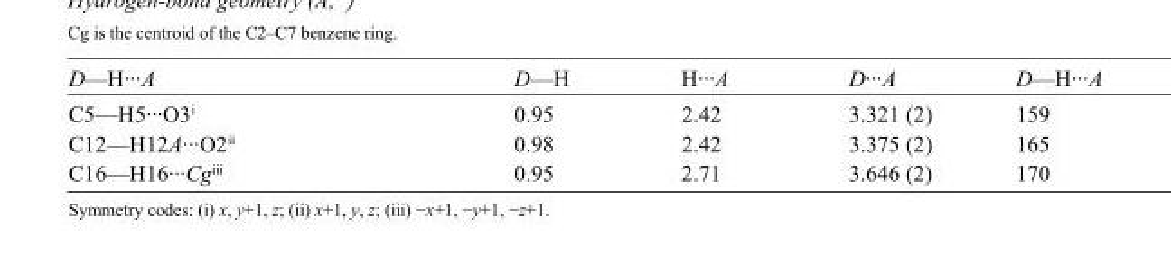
<table><tbody><tr><td>D—H···A</td><td>D—H</td><td>H···A</td><td>D···A</td><td>D—H···A</td></tr><tr><td>C5—H5···O3<sup>i</sup></td><td>0.95</td><td>2.42</td><td>3.321 (2)</td><td>159</td></tr><tr><td>C12—H12A···O2<sup>ii</sup></td><td>0.98</td><td>2.42</td><td>3.375 (2)</td><td>165</td></tr><tr><td>C16—H16···Cg<sup>iii</sup></td><td>0.95</td><td>2.71</td><td>3.646 (2)</td><td>170</td></tr></tbody></table>